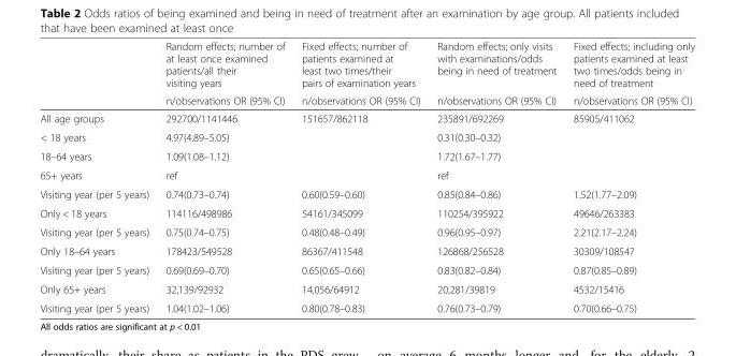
<table><thead><tr><td rowspan="2"></td><td rowspan="2">Random effects; number of at least once examined patients/all their visiting years n/observations OR (95% CI)</td><td rowspan="2">Fixed effects; number of patients examined at least two times/their pairs of examination years n/observations OR (95% CI)</td><td rowspan="2">Random effects; only visits with examinations/odds being in need of treatment n/observations OR (95% CI)</td><td rowspan="2">Fixed effects; including only patients examined at least two times/odds being in need of treatment n/observations OR (95% CI)</td></tr><tr></tr></thead><tbody><tr><td>All age groups</td><td>292700/1141446</td><td>151657/862118</td><td>235891/692269</td><td>85905/411062</td></tr><tr><td>&lt; 18 years</td><td>4.97(4.89–5.05)</td><td></td><td>0.31(0.30–0.32)</td><td></td></tr><tr><td>18–64 years</td><td>1.09(1.08–1.12)</td><td></td><td>1.72(1.67–1.77)</td><td></td></tr><tr><td>65+ years</td><td>ref</td><td></td><td>ref</td><td></td></tr><tr><td>Visiting year (per 5 years)</td><td>0.74(0.73–0.74)</td><td>0.60(0.59–0.60)</td><td>0.85(0.84–0.86)</td><td>1.52(1.77–2.09)</td></tr><tr><td>Only &lt; 18 years</td><td>114116/498986</td><td>54161/345099</td><td>110254/395922</td><td>49646/263383</td></tr><tr><td>Visiting year (per 5 years)</td><td>0.75(0.74–0.75)</td><td>0.48(0.48–0.49)</td><td>0.96(0.95–0.97)</td><td>2.21(2.17–2.24)</td></tr><tr><td>Only 18–64 years</td><td>178423/549528</td><td>86367/411548</td><td>126868/256528</td><td>30309/108547</td></tr><tr><td>Visiting year (per 5 years)</td><td>0.69(0.69–0.70)</td><td>0.65(0.65–0.66)</td><td>0.83(0.82–0.84)</td><td>0.87(0.85–0.89)</td></tr><tr><td>Only 65+ years</td><td>32,139/92932</td><td>14,056/64912</td><td>20,281/39819</td><td>4532/15416</td></tr><tr><td>Visiting year (per 5 years)</td><td>1.04(1.02–1.06)</td><td>0.80(0.78–0.83)</td><td>0.76(0.73–0.79)</td><td>0.70(0.66–0.75)</td></tr></tbody></table>